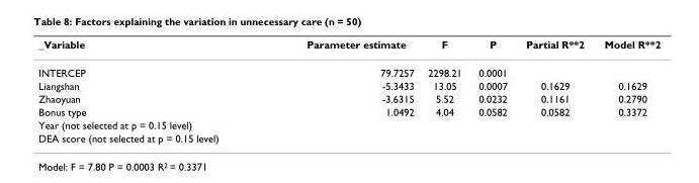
<table><thead><tr><td>_Variable</td><td>Parameter estimate</td><td>F</td><td>P</td><td>Partial R**2</td><td>Model R**2</td></tr></thead><tbody><tr><td>INTERCEP</td><td>79.7257</td><td>2298.21</td><td>0.0001</td><td></td><td></td></tr><tr><td>Liangshan</td><td>-5.3433</td><td>13.05</td><td>0.0007</td><td>0.1629</td><td>0.1629</td></tr><tr><td>Zhaoyuan</td><td>-3.6315</td><td>5.52</td><td>0.0232</td><td>0.1161</td><td>0.2790</td></tr><tr><td>Bonus type</td><td>1.0492</td><td>4.04</td><td>0.0582</td><td>0.0582</td><td>0.3372</td></tr><tr><td colspan="6">Year (not selected at p = 0.15 level)</td></tr><tr><td>DEA score (not selected at p = 0.15 level)</td><td></td><td></td><td></td><td></td><td></td></tr></tbody></table>